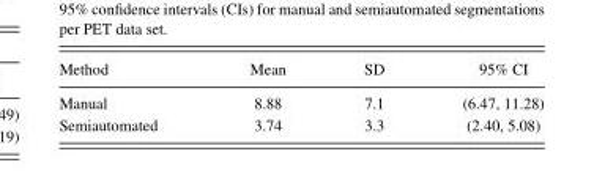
<table><thead><tr><td>Method</td><td>Mean</td><td>SD</td><td>95% CI</td></tr></thead><tbody><tr><td>Manual</td><td>8.88</td><td>7.1</td><td>(6.47, 11.28)</td></tr><tr><td>Semiautomated</td><td>3.74</td><td>3.3</td><td>(2.40, 5.08)</td></tr></tbody></table>